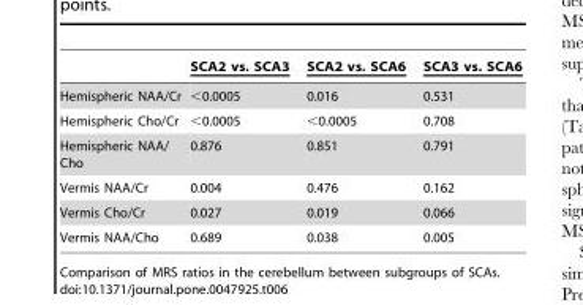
<table><thead><tr><td></td><td>SCA2 vs. SCA3</td><td>SCA2 vs. SCA6</td><td>SCA3 vs. SCA6</td></tr></thead><tbody><tr><td>Hemispheric NAA/Cr</td><td>&lt;0.0005</td><td>0.016</td><td>0.531</td></tr><tr><td>Hemispheric Cho/Cr</td><td>&lt;0.0005</td><td>&lt;0.0005</td><td>0.708</td></tr><tr><td>Hemispheric NAA/ Cho</td><td>0.876</td><td>0.851</td><td>0.791</td></tr><tr><td>Vermis NAA/Cr</td><td>0.004</td><td>0.476</td><td>0.162</td></tr><tr><td>Vermis Cho/Cr</td><td>0.027</td><td>0.019</td><td>0.066</td></tr><tr><td>Vermis NAA/Cho</td><td>0.689</td><td>0.038</td><td>0.005</td></tr></tbody></table>